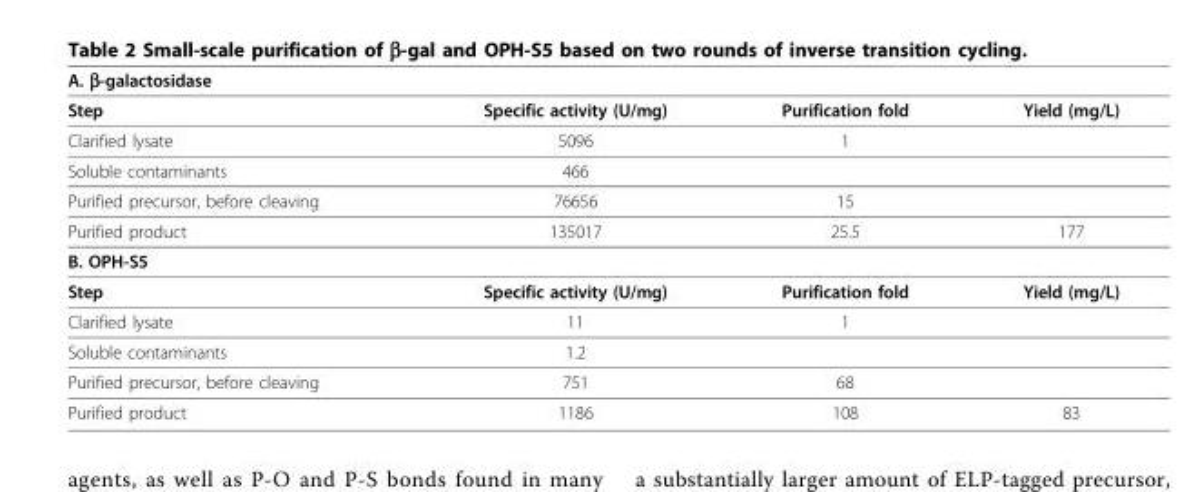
<table><thead><tr><td>A. β-galactosidase</td><td></td><td></td><td></td></tr></thead><tbody><tr><td>Step</td><td>Specific activity (U/mg)</td><td>Purification fold</td><td>Yield (mg/L)</td></tr><tr><td>Clarified lysate</td><td>5096</td><td>1</td><td></td></tr><tr><td>Soluble contaminants</td><td>466</td><td></td><td></td></tr><tr><td>Purified precursor, before cleaving</td><td>76656</td><td>15</td><td></td></tr><tr><td>Purified product</td><td>135017</td><td>25.5</td><td>177</td></tr><tr><td colspan="4">B. OPH-S5</td></tr><tr><td>Step</td><td>Specific activity (U/mg)</td><td>Purification fold</td><td>Yield (mg/L)</td></tr><tr><td>Clarified lysate</td><td>11</td><td>1</td><td></td></tr><tr><td>Soluble contaminants</td><td>1.2</td><td></td><td></td></tr><tr><td>Purified precursor, before cleaving</td><td>751</td><td>68</td><td></td></tr><tr><td>Purified product</td><td>1186</td><td>108</td><td>83</td></tr></tbody></table>